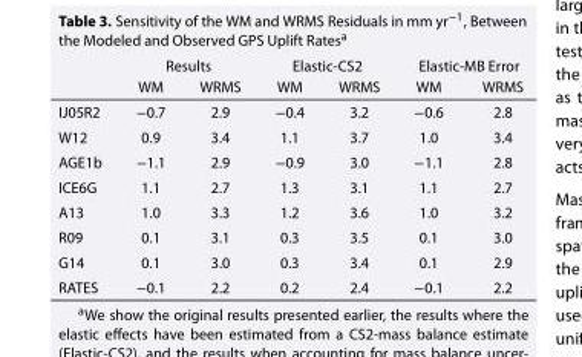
<table><thead><tr><td rowspan="2"></td><td colspan="2">Results</td><td colspan="2">Elastic-CS2</td><td colspan="2">Elastic-MB Error</td></tr><tr><td>WM</td><td>WRMS</td><td>WM</td><td>WRMS</td><td>WM</td><td>WRMS</td></tr></thead><tbody><tr><td>IJ05R2</td><td>−0.7</td><td>2.9</td><td>−0.4</td><td>3.2</td><td>−0.6</td><td>2.8</td></tr><tr><td>W12</td><td>0.9</td><td>3.4</td><td>1.1</td><td>3.7</td><td>1.0</td><td>3.4</td></tr><tr><td>AGE1b</td><td>−1.1</td><td>2.9</td><td>−0.9</td><td>3.0</td><td>−1.1</td><td>2.8</td></tr><tr><td>ICE6G</td><td>1.1</td><td>2.7</td><td>1.3</td><td>3.1</td><td>1.1</td><td>2.7</td></tr><tr><td>A13</td><td>1.0</td><td>3.3</td><td>1.2</td><td>3.6</td><td>1.0</td><td>3.2</td></tr><tr><td>R09</td><td>0.1</td><td>3.1</td><td>0.3</td><td>3.5</td><td>0.1</td><td>3.0</td></tr><tr><td>G14</td><td>0.1</td><td>3.0</td><td>0.3</td><td>3.4</td><td>0.1</td><td>2.9</td></tr><tr><td>RATES</td><td>−0.1</td><td>2.2</td><td>0.2</td><td>2.4</td><td>−0.1</td><td>2.2</td></tr></tbody></table>